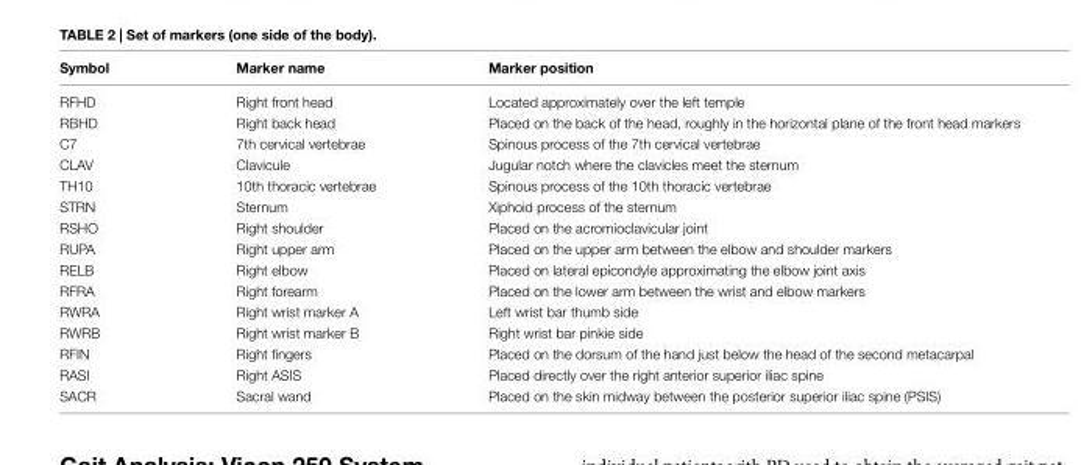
<table><thead><tr><td>symbol</td><td>Marker name</td><td>Marker position</td></tr></thead><tbody><tr><td>RFHD</td><td>Right front head</td><td>Located approximately over the left temple</td></tr><tr><td>RBHD</td><td>Right back head</td><td>Placed on the back of the head, roughly in the horizontal plane of the front head markers</td></tr><tr><td>C7</td><td>7th cervical vertebrae</td><td>Spinous process of the 7th cervical vertebrae</td></tr><tr><td>CLAV</td><td>Clavicule</td><td>Jugular notch where the clavicles meet the sternum</td></tr><tr><td>TH10</td><td>10th thoracic vertebrae</td><td>Spinous process of the 10th thoracic vertebrae</td></tr><tr><td>STRN</td><td>Sternum</td><td>Xiphoid process of the sternum</td></tr><tr><td>RSHO</td><td>Right shoulder</td><td>Placed on the acromioclavicular joint</td></tr><tr><td>RUPA</td><td>Right upper arm</td><td>Placed on the upper arm between the elbow and shoulder markers</td></tr><tr><td>RELB</td><td>Right elbow</td><td>Placed on lateral epicondyle approximating the elbow joint axis</td></tr><tr><td>RFRA</td><td>Right forearm</td><td>Placed on the lower arm between the wrist and elbow markers</td></tr><tr><td>RWRA</td><td>Right wrist marker A</td><td>Left wrist bar thumb side</td></tr><tr><td>RWRB</td><td>Right wrist marker B</td><td>Right wrist bar pinkie side</td></tr><tr><td>RFIN</td><td>Right fingers</td><td>Placed on the dorsum of the hand just below the head of the second metacarpal</td></tr><tr><td>RASI</td><td>Right ASIS</td><td>Placed directly over the right anterior superior iliac spine</td></tr><tr><td>SACR</td><td>Sacral wand</td><td>Placed on the skin midway between the posterior superior iliac spine (PSIS)</td></tr></tbody></table>